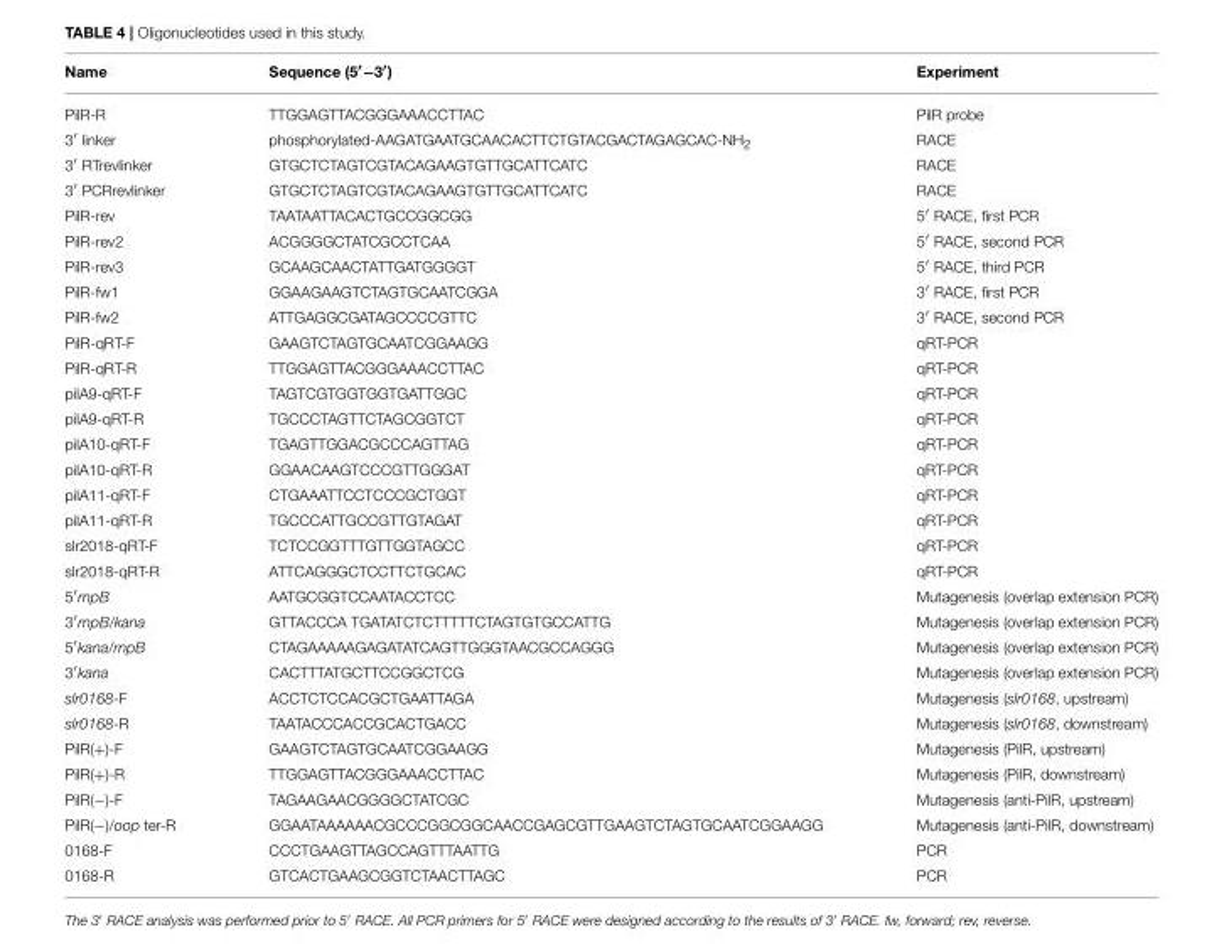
<table><thead><tr><td>Name</td><td>Sequence (5′−3′)</td><td>Experiment</td></tr></thead><tbody><tr><td>PilR-R</td><td>TTGGAGTTACGGGAAACCTTAC</td><td>PilR probe</td></tr><tr><td>3′ linker</td><td>phosphorylated-AAGATGAATGCAACACTTCTGTACGACTAGAGCAC-NH<sub>2</sub></td><td>RACE</td></tr><tr><td>3′ RTrevlinker</td><td>GTGCTCTAGTCGTACAGAAGTGTTGCATTCATC</td><td>RACE</td></tr><tr><td>3′ PCRrevlinker</td><td>GTGCTCTAGTCGTACAGAAGTGTTGCATTCATC</td><td>RACE</td></tr><tr><td>PilR-rev</td><td>TAATAATTACACTGCCGGCGG</td><td>5′ RACE, first PCR</td></tr><tr><td>PilR-rev2</td><td>ACGGGGCTATCGCCTCAA</td><td>5′ RACE, second PCR</td></tr><tr><td>PilR-rev3</td><td>GCAAGCAACTATTGATGGGGT</td><td>5′ RACE, third PCR</td></tr><tr><td>PilR-fw1</td><td>GGAAGAAGTCTAGTGCAATCGGA</td><td>3′ RACE, first PCR</td></tr><tr><td>PilR-fw2</td><td>ATTGAGGCGATAGCCCCGTTC</td><td>3′ RACE, second PCR</td></tr><tr><td>PilR-qRT-F</td><td>GAAGTCTAGTGCAATCGGAAGG</td><td>qRT-PCR</td></tr><tr><td>PilR-qRT-R</td><td>TTGGAGTTACGGGAAACCTTAC</td><td>qRT-PCR</td></tr><tr><td>pilA9-qRT-F</td><td>TAGTCGTGGTGGTGATTGGC</td><td>qRT-PCR</td></tr><tr><td>pilA9-qRT-R</td><td>TGCCCTAGTTCTAGCGGTCT</td><td>qRT-PCR</td></tr><tr><td>pilA10-qRT-F</td><td>TGAGTTGGACGCCCAGTTAG</td><td>qRT-PCR</td></tr><tr><td>pilA10-qRT-R</td><td>GGAACAAGTCCCGTTGGGAT</td><td>qRT-PCR</td></tr><tr><td>pilA11-qRT-F</td><td>CTGAAATTCCTCCCGCTGGT</td><td>qRT-PCR</td></tr><tr><td>pilA11-qRT-R</td><td>TGCCCATTGCCGTTGTAGAT</td><td>qRT-PCR</td></tr><tr><td>slr2018-qRT-F</td><td>TCTCCGGTTTGTTGGTAGCC</td><td>qRT-PCR</td></tr><tr><td>slr2018-qRT-R</td><td>ATTCAGGGCTCCTTCTGCAC</td><td>qRT-PCR</td></tr><tr><td>5′rnpB</td><td>AATGCGGTCCAATACCTCC</td><td>Mutagenesis (overlap extension PCR)</td></tr><tr><td>3′rnpB/kana</td><td>GTTACCCA TGATATCTCTTTTTCTAGTGTGCCATTG</td><td>Mutagenesis (overlap extension PCR)</td></tr><tr><td>5′kana/rnpB</td><td>CTAGAAAAAGAGATATCAGTTGGGTAACGCCAGGG</td><td>Mutagenesis (overlap extension PCR)</td></tr><tr><td>3′kana</td><td>CACTTTATGCTTCCGGCTCG</td><td>Mutagenesis (overlap extension PCR)</td></tr><tr><td>slr0168-F</td><td>ACCTCTCCACGCTGAATTAGA</td><td>Mutagenesis (slr0168, upstream)</td></tr><tr><td>slr0168-R</td><td>TAATACCCACCGCACTGACC</td><td>Mutagenesis (slr0168, downstream)</td></tr><tr><td>PilR(+)-F</td><td>GAAGTCTAGTGCAATCGGAAGG</td><td>Mutagenesis (PilR, upstream)</td></tr><tr><td>PilR(+)-R</td><td>TTGGAGTTACGGGAAACCTTAC</td><td>Mutagenesis (PilR, downstream)</td></tr><tr><td>PilR(−)-F</td><td>TAGAAGAACGGGGCTATCGC</td><td>Mutagenesis (anti-PilR, upstream)</td></tr><tr><td>PilR(−)/oop ter-R</td><td>GGAATAAAAAACGCCCGGCGGCAACCGAGCGTTGAAGTCTAGTGCAATCGGAAGG</td><td>Mutagenesis (anti-PilR, downstream)</td></tr><tr><td>0168-F</td><td>CCCTGAAGTTAGCCAGTTTAATTG</td><td>PCR</td></tr><tr><td>0168-R</td><td>GTCACTGAAGCGGTCTAACTTAGC</td><td>PCR</td></tr></tbody></table>